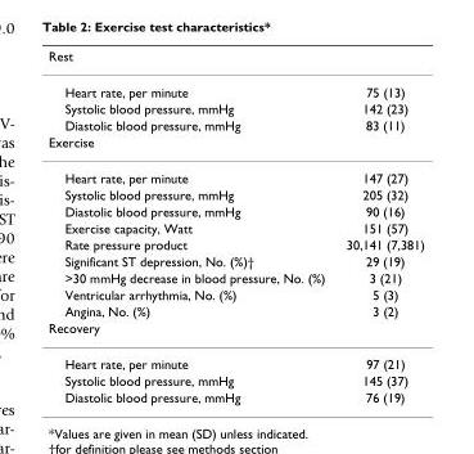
<table><thead><tr><td>Rest</td><td></td></tr></thead><tbody><tr><td>Heart rate, per minute</td><td>75 (13)</td></tr><tr><td>Systolic blood pressure, mmHg</td><td>142 (23)</td></tr><tr><td>Diastolic blood pressure, mmHg</td><td>83 (11)</td></tr><tr><td colspan="2">Exercise</td></tr><tr><td>Heart rate, per minute</td><td>147 (27)</td></tr><tr><td>Systolic blood pressure, mmHg</td><td>205 (32)</td></tr><tr><td>Diastolic blood pressure, mmHg</td><td>90 (16)</td></tr><tr><td>Exercise capacity, Watt</td><td>151 (57)</td></tr><tr><td>Rate pressure product</td><td>30,141 (7,381)</td></tr><tr><td>Significant ST depression, No. (%)†</td><td>29 (19)</td></tr><tr><td>&gt;30 mmHg decrease in blood pressure, No. (%)</td><td>3 (21)</td></tr><tr><td>Ventricular arrhythmia, No. (%)</td><td>5 (3)</td></tr><tr><td>Angina, No. (%)</td><td>3 (2)</td></tr><tr><td colspan="2">Recovery</td></tr><tr><td>Heart rate, per minute</td><td>97 (21)</td></tr><tr><td>Systolic blood pressure, mmHg</td><td>145 (37)</td></tr><tr><td>Diastolic blood pressure, mmHg</td><td>76 (19)</td></tr></tbody></table>